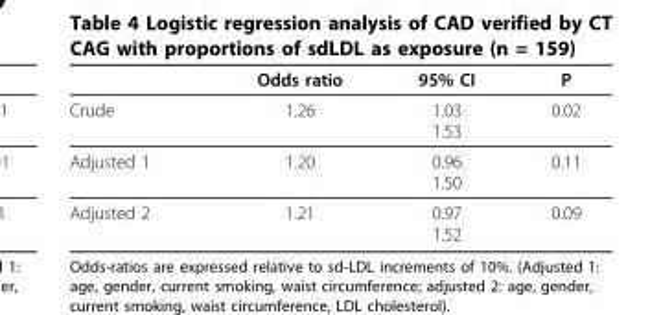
<table><thead><tr><td></td><td>Odds ratio</td><td>95% CI</td><td>P</td></tr></thead><tbody><tr><td>Crude</td><td>1.26</td><td>1.03 1.53</td><td>0.02</td></tr><tr><td>Adjusted 1</td><td>1.20</td><td>0.96 1.50</td><td>0.11</td></tr><tr><td>Adjusted 2</td><td>1.21</td><td>0.97 1.52</td><td>0.09</td></tr></tbody></table>